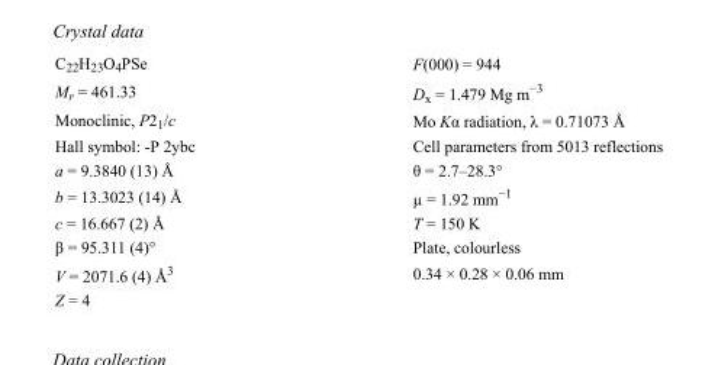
<table><tbody><tr><td>C<sub>22</sub>H<sub>23</sub>O<sub>4</sub>PSe</td><td>F(000) = 944</td></tr><tr><td>M<sub>r</sub> = 461.33</td><td>D<sub>x</sub> = 1.479 Mg m<sup>−3</sup></td></tr><tr><td>Monoclinic, P2<sub>1</sub>/c</td><td>Mo Kα radiation, λ = 0.71073 Å</td></tr><tr><td>Hall symbol: -P 2ybc</td><td>Cell parameters from 5013 reflections</td></tr><tr><td>a = 9.3840 (13) Å</td><td>θ = 2.7–28.3°</td></tr><tr><td>b = 13.3023 (14) Å</td><td>µ = 1.92 mm<sup>−1</sup></td></tr><tr><td>c = 16.667 (2) Å</td><td>T = 150 K</td></tr><tr><td>β = 95.311 (4)°</td><td>Plate, colourless</td></tr><tr><td>V = 2071.6 (4) Å<sup>3</sup></td><td>0.34 × 0.28 × 0.06 mm</td></tr><tr><td>Z = 4</td><td></td></tr></tbody></table>